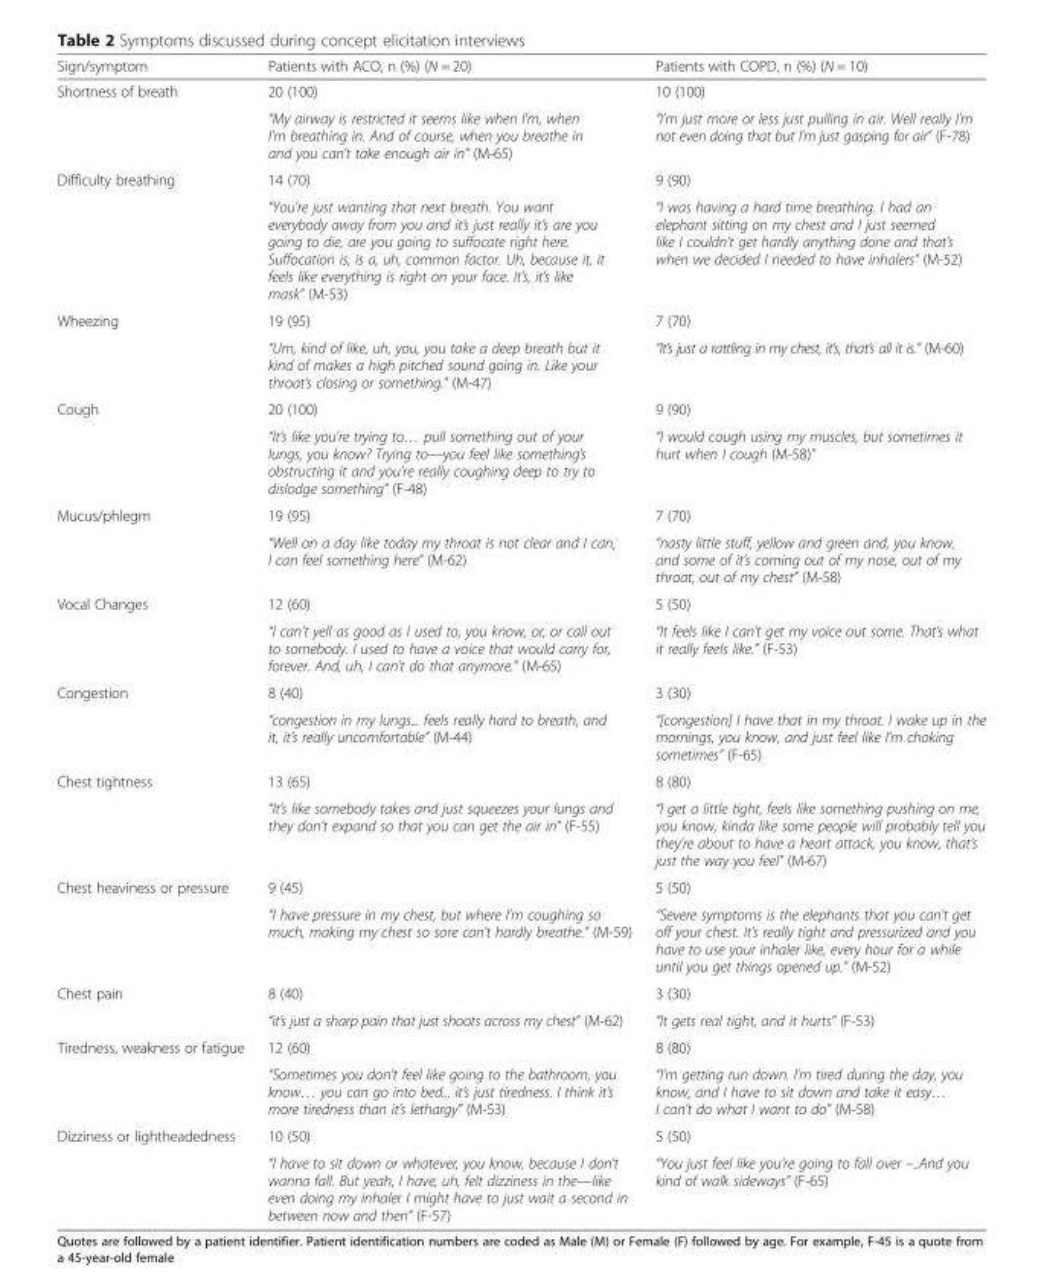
<table><thead><tr><td>Sign/symptom</td><td>Patients with ACO, n (%) (N = 20)</td><td>Patients with COPD, n (%) (N = 10)</td></tr></thead><tbody><tr><td rowspan="2">Shortness of breath</td><td>20 (100)</td><td>10 (100)</td></tr><tr><td>“My airway is restricted it seems like when I’m, when I’m breathing in. And of course, when you breathe in and you can’t take enough air in” (M-65)</td><td>“I’m just more or less just pulling in air. Well really I’m not even doing that but I’m just gasping for air” (F-78)</td></tr><tr><td rowspan="2">Difficulty breathing</td><td>14 (70)</td><td>9 (90)</td></tr><tr><td>“You’re just wanting that next breath. You want everybody away from you and it’s just really it’s are you going to die, are you going to suffocate right here. Suffocation is, is a, uh, common factor. Uh, because it, it feels like everything is right on your face. It’s, it’s like mask” (M-53)</td><td>“I was having a hard time breathing. I had an elephant sitting on my chest and I just seemed like I couldn’t get hardly anything done and that’s when we decided I needed to have inhalers” (M-52)</td></tr><tr><td rowspan="2">Wheezing</td><td>19 (95)</td><td>7 (70)</td></tr><tr><td>“Um, kind of like, uh, you, you take a deep breath but it kind of makes a high pitched sound going in. Like your throat’s closing or something.” (M-47)</td><td>“It’s just a rattling in my chest, it’s, that’s all it is.” (M-60)</td></tr><tr><td rowspan="2">Cough</td><td>20 (100)</td><td>9 (90)</td></tr><tr><td>“It’s like you’re trying to… pull something out of your lungs, you know? Trying to—you feel like something’s obstructing it and you’re really coughing deep to try to dislodge something” (F-48)</td><td>“I would cough using my muscles, but sometimes it hurt when I cough (M-58)”</td></tr><tr><td rowspan="2">Mucus/phlegm</td><td>19 (95)</td><td>7 (70)</td></tr><tr><td>“Well on a day like today my throat is not clear and I can, I can feel something here” (M-62)</td><td>“nasty little stuff, yellow and green and, you know, and some of it’s coming out of my nose, out of my throat, out of my chest” (M-58)</td></tr><tr><td rowspan="2">Vocal Changes</td><td>12 (60)</td><td>5 (50)</td></tr><tr><td>“I can’t yell as good as I used to, you know, or, or call out to somebody. I used to have a voice that would carry for, forever. And, uh, I can’t do that anymore.” (M-65)</td><td>“It feels like I can’t get my voice out some. That’s what it really feels like.” (F-53)</td></tr><tr><td rowspan="2">Congestion</td><td>8 (40)</td><td>3 (30)</td></tr><tr><td>“congestion in my lungs... feels really hard to breath, and it, it’s really uncomfortable” (M-44)</td><td>“[congestion] I have that in my throat. I wake up in the mornings, you know, and just feel like I’m choking sometimes” (F-65)</td></tr><tr><td rowspan="2">Chest tightness</td><td>13 (65)</td><td>8 (80)</td></tr><tr><td>“It’s like somebody takes and just squeezes your lungs and they don’t expand so that you can get the air in” (F-55)</td><td>“I get a little tight, feels like something pushing on me, you know, kinda like some people will probably tell you they’re about to have a heart attack, you know, that’s just the way you feel” (M-67)</td></tr><tr><td rowspan="2">Chest heaviness or pressure</td><td>9 (45)</td><td>5 (50)</td></tr><tr><td>“I have pressure in my chest, but where I’m coughing so much, making my chest so sore can’t hardly breathe.” (M-59)</td><td>“Severe symptoms is the elephants that you can’t get off your chest. It’s really tight and pressurized and you have to use your inhaler like, every hour for a while until you get things opened up.” (M-52)</td></tr><tr><td rowspan="2">Chest pain</td><td>8 (40)</td><td>3 (30)</td></tr><tr><td>“it’s just a sharp pain that just shoots across my chest” (M-62)</td><td>“It gets real tight, and it hurts” (F-53)</td></tr><tr><td rowspan="2">Tiredness, weakness or fatigue</td><td>12 (60)</td><td>8 (80)</td></tr><tr><td>“Sometimes you don’t feel like going to the bathroom, you know… you can go into bed... it’s just tiredness. I think it’s more tiredness than it’s lethargy” (M-53)</td><td>“I’m getting run down. I’m tired during the day, you know, and I have to sit down and take it easy… I can’t do what I want to do” (M-58)</td></tr><tr><td rowspan="2">Dizziness or lightheadedness</td><td>10 (50)</td><td>5 (50)</td></tr><tr><td>“I have to sit down or whatever, you know, because I don’t wanna fall. But yeah, I have, uh, felt dizziness in the—like even doing my inhaler I might have to just wait a second in between now and then” (F-57)</td><td>“You just feel like you’re going to fall over –..And you kind of walk sideways” (F-65)</td></tr></tbody></table>